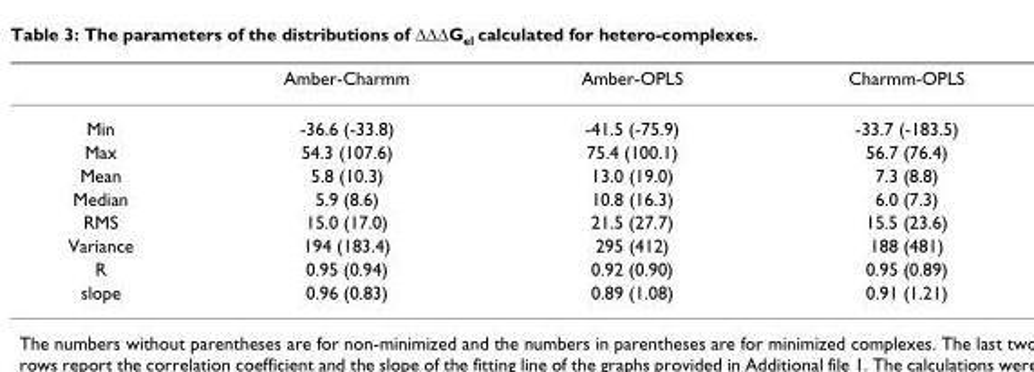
<table><thead><tr><td></td><td>Amber-Charmm</td><td>Amber-OPLS</td><td>Charmm-OPLS</td></tr></thead><tbody><tr><td>Min</td><td>-36.6 (-33.8)</td><td>-41.5 (-75.9)</td><td>-33.7 (-183.5)</td></tr><tr><td>Max</td><td>54.3 (107.6)</td><td>75.4 (100.1)</td><td>56.7 (76.4)</td></tr><tr><td>Mean</td><td>5.8 (10.3)</td><td>13.0 (19.0)</td><td>7.3 (8.8)</td></tr><tr><td>Median</td><td>5.9 (8.6)</td><td>10.8 (16.3)</td><td>6.0 (7.3)</td></tr><tr><td>RMS</td><td>15.0 (17.0)</td><td>21.5 (27.7)</td><td>15.5 (23.6)</td></tr><tr><td>Variance</td><td>194 (183.4)</td><td>295 (412)</td><td>188 (481)</td></tr><tr><td>R</td><td>0.95 (0.94)</td><td>0.92 (0.90)</td><td>0.95 (0.89)</td></tr><tr><td>slope</td><td>0.96 (0.83)</td><td>0.89 (1.08)</td><td>0.91 (1.21)</td></tr></tbody></table>